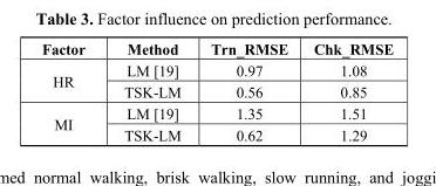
<table><thead><tr><td>Factor</td><td>Method</td><td>Trn_RMSE</td><td>Chk_RMSE</td></tr></thead><tbody><tr><td rowspan="2">HR</td><td>LM [19]</td><td>0.97</td><td>1.08</td></tr><tr><td>TSK-LM</td><td>0.56</td><td>0.85</td></tr><tr><td rowspan="2">MI</td><td>LM [19]</td><td>1.35</td><td>1.51</td></tr><tr><td>TSK-LM</td><td>0.62</td><td>1.29</td></tr></tbody></table>